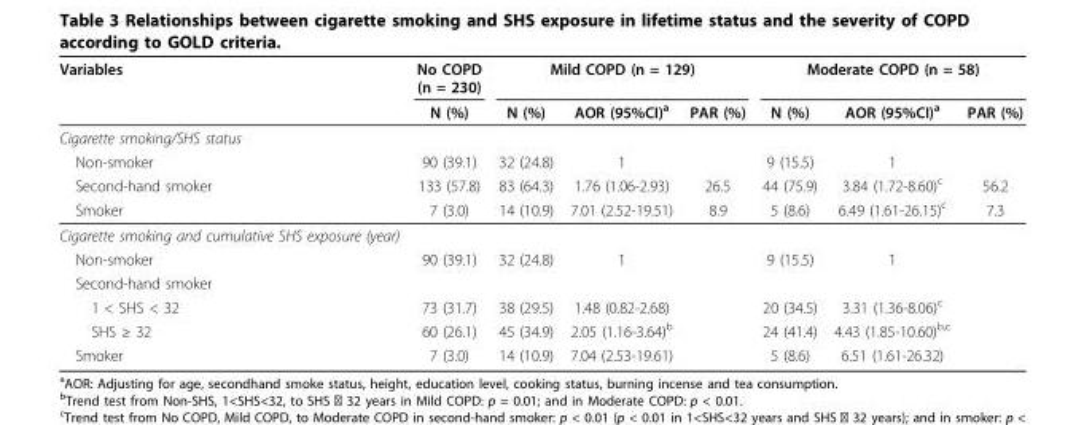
<table><thead><tr><td rowspan="2">Variables</td><td rowspan="2">No COPD (n = 230) N (%)</td><td colspan="3">Mild COPD (n = 129)</td><td colspan="3">Moderate COPD (n = 58)</td></tr><tr><td>N (%)</td><td>AOR (95%CI)<sup>a</sup></td><td>PAR (%)</td><td>N (%)</td><td>AOR (95%CI)<sup>a</sup></td><td>PAR (%)</td></tr></thead><tbody><tr><td colspan="8">Cigarette smoking/SHS status</td></tr><tr><td>Non-smoker</td><td>90 (39.1)</td><td>32 (24.8)</td><td>1</td><td></td><td>9 (15.5)</td><td>1</td><td></td></tr><tr><td>Second-hand smoker</td><td>133 (57.8)</td><td>83 (64.3)</td><td>1.76 (1.06-2.93)</td><td>26.5</td><td>44 (75.9)</td><td>3.84 (1.72-8.60)<sup>c</sup></td><td>56.2</td></tr><tr><td>Smoker</td><td>7 (3.0)</td><td>14 (10.9)</td><td>7.01 (2.52-19.51)</td><td>8.9</td><td>5 (8.6)</td><td>6.49 (1.61-26.15)<sup>c</sup></td><td>7.3</td></tr><tr><td colspan="8">Cigarette smoking and cumulative SHS exposure (year)</td></tr><tr><td>Non-smoker</td><td>90 (39.1)</td><td>32 (24.8)</td><td>1</td><td></td><td>9 (15.5)</td><td>1</td><td></td></tr><tr><td colspan="8">Second-hand smoker</td></tr><tr><td>1 &lt; SHS &lt; 32</td><td>73 (31.7)</td><td>38 (29.5)</td><td>1.48 (0.82-2.68)</td><td></td><td>20 (34.5)</td><td>3.31 (1.36-8.06)<sup>c</sup></td><td></td></tr><tr><td>SHS ≥ 32</td><td>60 (26.1)</td><td>45 (34.9)</td><td>2.05 (1.16-3.64)<sup>b</sup></td><td></td><td>24 (41.4)</td><td>4.43 (1.85-10.60)<sup>b,c</sup></td><td></td></tr><tr><td>Smoker</td><td>7 (3.0)</td><td>14 (10.9)</td><td>7.04 (2.53-19.61)</td><td></td><td>5 (8.6)</td><td>6.51 (1.61-26.32)</td><td></td></tr></tbody></table>